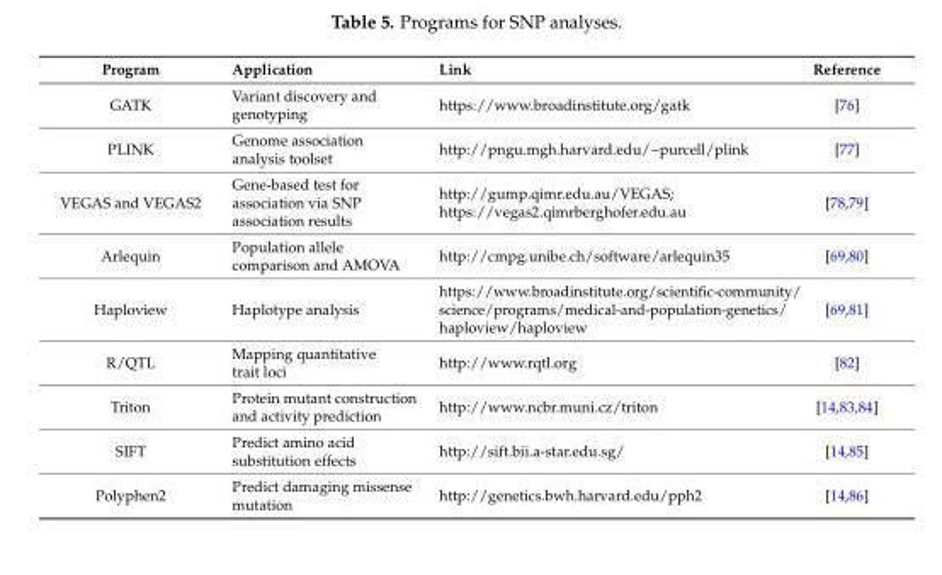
<table><thead><tr><td>Program</td><td>Application</td><td>Link</td><td>Reference</td></tr></thead><tbody><tr><td>GATK</td><td>Variant discovery and genotyping</td><td>https://www.broadinstitute.org/gatk</td><td>[76]</td></tr><tr><td>PLINK</td><td>Genome association analysis toolset</td><td>http://pngu.mgh.harvard.edu/~purcell/plink</td><td>[77]</td></tr><tr><td>VEGAS and VEGAS2</td><td>Gene-based test for association via SNP association results</td><td>http://gump.qimr.edu.au/VEGAS; https://vegas2.qimrberghofer.edu.au</td><td>[78,79]</td></tr><tr><td>Arlequin</td><td>Population allele comparison and AMOVA</td><td>http://cmpg.unibe.ch/software/arlequin35</td><td>[69,80]</td></tr><tr><td>Haploview</td><td>Haplotype analysis</td><td>https://www.broadinstitute.org/scientific-community/ science/programs/medical-and-population-genetics/ haploview/haploview</td><td>[69,81]</td></tr><tr><td>R/QTL</td><td>Mapping quantitative trait loci</td><td>http://www.rqtl.org</td><td>[82]</td></tr><tr><td>Triton</td><td>Protein mutant construction and activity prediction</td><td>http://www.ncbr.muni.cz/triton</td><td>[14,83,84]</td></tr><tr><td>SIFT</td><td>Predict amino acid substitution effects</td><td>http://sift.bii.a-star.edu.sg/</td><td>[14,85]</td></tr><tr><td>Polyphen2</td><td>Predict damaging missense mutation</td><td>http://genetics.bwh.harvard.edu/pph2</td><td>[14,86]</td></tr></tbody></table>